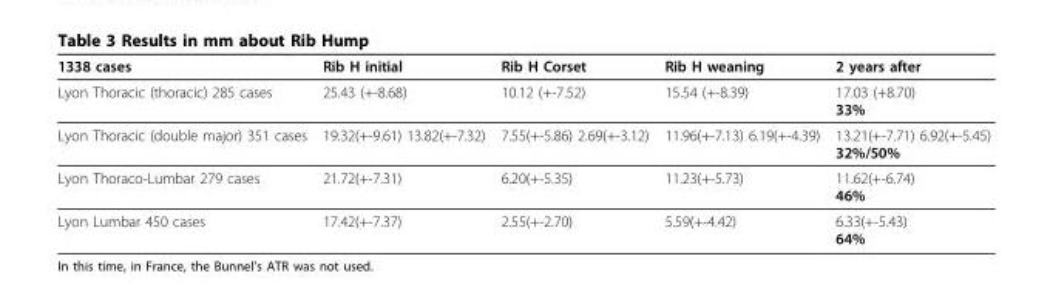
<table><thead><tr><td>1338 cases</td><td>Rib H initial</td><td>Rib H Corset</td><td>Rib H weaning</td><td>2 years after</td></tr></thead><tbody><tr><td>Lyon Thoracic (thoracic) 285 cases</td><td>25.43 (+-8.68)</td><td>10.12 (+-7.52)</td><td>15.54 (+-8.39)</td><td>17.03 (+8.70) 33%</td></tr><tr><td>Lyon Thoracic (double major) 351 cases</td><td>19.32(+-9.61) 13.82(+-7.32)</td><td>7.55(+-5.86) 2.69(+-3.12)</td><td>11.96(+-7.13) 6.19(+-4.39)</td><td>13.21(+-7.71) 6.92(+-5.45) 32%/50%</td></tr><tr><td>Lyon Thoraco-Lumbar 279 cases</td><td>21.72(+-7.31)</td><td>6.20(+-5.35)</td><td>11.23(+-5.73)</td><td>11.62(+-6.74) 46%</td></tr><tr><td>Lyon Lumbar 450 cases</td><td>17.42(+-7.37)</td><td>2.55(+-2.70)</td><td>5.59(+-4.42)</td><td>6.33(+-5.43) 64%</td></tr></tbody></table>